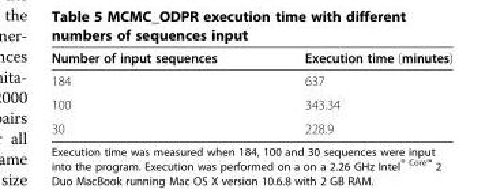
<table><thead><tr><td>Number of input sequences</td><td>Execution time (minutes)</td></tr></thead><tbody><tr><td>184</td><td>637</td></tr><tr><td>100</td><td>343.34</td></tr><tr><td>30</td><td>228.9</td></tr></tbody></table>